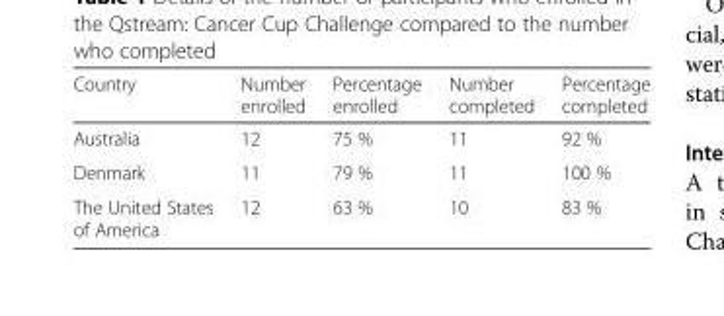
<table><thead><tr><td>Country</td><td>Number enrolled</td><td>Percentage enrolled</td><td>Number completed</td><td>Percentage completed</td></tr></thead><tbody><tr><td>Australia</td><td>12</td><td>75 %</td><td>11</td><td>92 %</td></tr><tr><td>Denmark</td><td>11</td><td>79 %</td><td>11</td><td>100 %</td></tr><tr><td>The United States of America</td><td>12</td><td>63 %</td><td>10</td><td>83 %</td></tr></tbody></table>